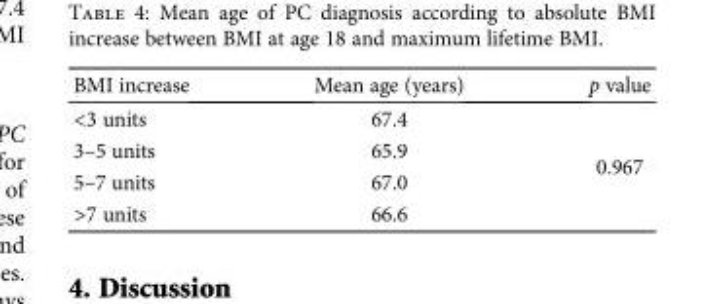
<table><thead><tr><td>BMI increase</td><td>Mean age (years)</td><td>p value</td></tr></thead><tbody><tr><td>&lt;3 units</td><td>67.4</td><td rowspan="4">0.967</td></tr><tr><td>3–5 units</td><td>65.9</td></tr><tr><td>5–7 units</td><td>67.0</td></tr><tr><td>&gt;7 units</td><td>66.6</td></tr></tbody></table>